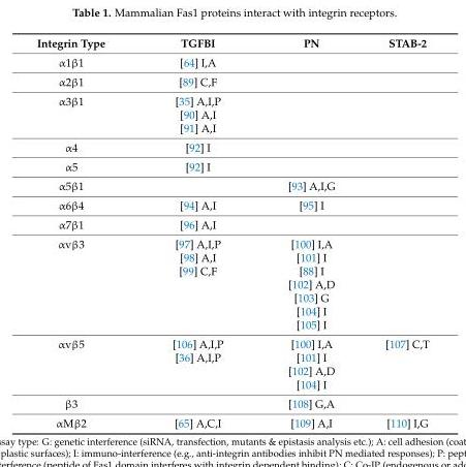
<table><thead><tr><td>Integrin Type</td><td>TGFBI</td><td>PN</td><td>STAB-2</td></tr></thead><tbody><tr><td>α1β1</td><td>[64] I,A</td><td></td><td></td></tr><tr><td>α2β1</td><td>[89] C,F</td><td></td><td></td></tr><tr><td>α3β1</td><td>[35] A,I,P [90] A,I [91] A,I</td><td></td><td></td></tr><tr><td>α4</td><td>[92] I</td><td></td><td></td></tr><tr><td>α5</td><td>[92] I</td><td></td><td></td></tr><tr><td>α5β1</td><td></td><td>[93] A,I,G</td><td></td></tr><tr><td>α6β4</td><td>[94] A,I</td><td>[95] I</td><td></td></tr><tr><td>α7β1</td><td>[96] A,I</td><td></td><td></td></tr><tr><td>αvβ3</td><td>[97] A,I,P [98] A,I [99] C,F</td><td>[100] I,A [101] I [88] I [102] A,D [103] G [104] I [105] I</td><td></td></tr><tr><td>αvβ5</td><td>[106] A,I,P [36] A,I,P</td><td>[100] I,A [101] I [102] A,D [104] I</td><td>[107] C,T</td></tr><tr><td>β3</td><td></td><td>[108] G,A</td><td></td></tr><tr><td>αMβ2</td><td>[65] A,C,I</td><td>[109] A,I</td><td>[110] I,G</td></tr></tbody></table>